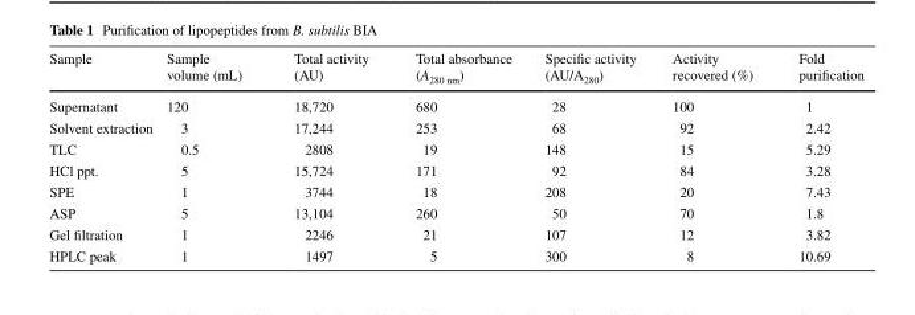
<table><thead><tr><td>Sample</td><td>Sample volume (mL)</td><td>Total activity (AU)</td><td>Total absorbance (A<sub>280 nm</sub>)</td><td>Specific activity (AU/A<sub>280</sub>)</td><td>Activity recovered (%)</td><td>Fold purification</td></tr></thead><tbody><tr><td>Supernatant</td><td>120</td><td>18,720</td><td>680</td><td>28</td><td>100</td><td>1</td></tr><tr><td>Solvent extraction</td><td>3</td><td>17,244</td><td>253</td><td>68</td><td>92</td><td>2.42</td></tr><tr><td>TLC</td><td>0.5</td><td>2808</td><td>19</td><td>148</td><td>15</td><td>5.29</td></tr><tr><td>HCl ppt.</td><td>5</td><td>15,724</td><td>171</td><td>92</td><td>84</td><td>3.28</td></tr><tr><td>SPE</td><td>1</td><td>3744</td><td>18</td><td>208</td><td>20</td><td>7.43</td></tr><tr><td>ASP</td><td>5</td><td>13,104</td><td>260</td><td>50</td><td>70</td><td>1.8</td></tr><tr><td>Gel filtration</td><td>1</td><td>2246</td><td>21</td><td>107</td><td>12</td><td>3.82</td></tr><tr><td>HPLC peak</td><td>1</td><td>1497</td><td>5</td><td>300</td><td>8</td><td>10.69</td></tr></tbody></table>